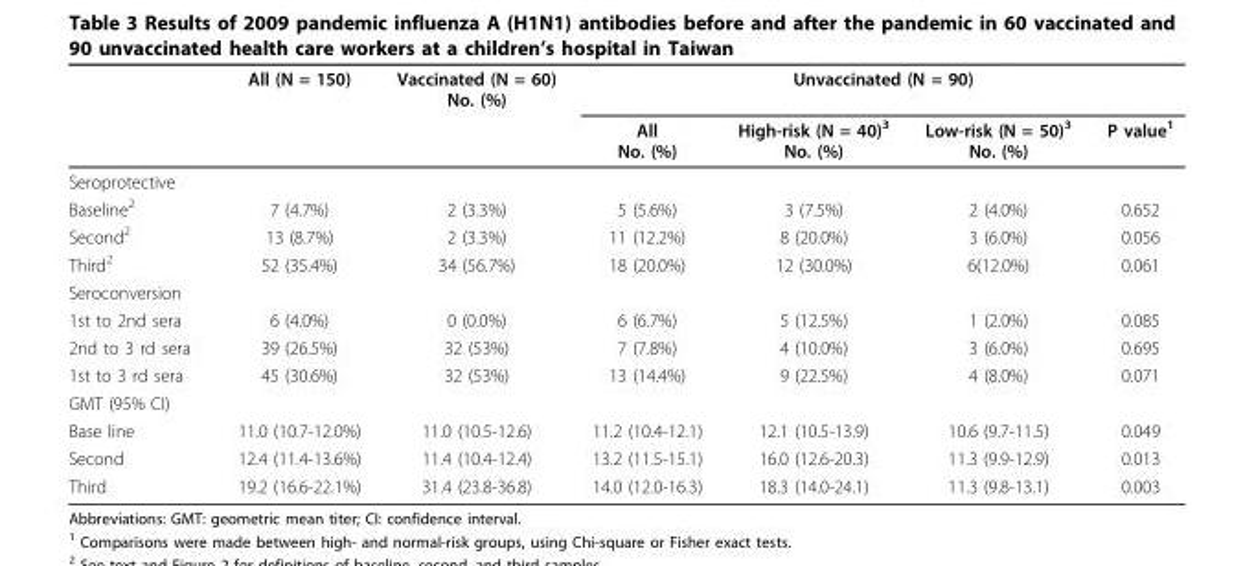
<table><thead><tr><td rowspan="2"></td><td rowspan="2">All (N = 150)</td><td rowspan="2">Vaccinated (N = 60) No. (%)</td><td colspan="4">Unvaccinated (N = 90)</td></tr><tr><td>All No. (%)</td><td>High-risk (N = 40)<sup>3</sup> No. (%)</td><td>Low-risk (N = 50)<sup>3</sup> No. (%)</td><td>P value<sup>1</sup></td></tr></thead><tbody><tr><td colspan="7">Seroprotective</td></tr><tr><td>Baseline<sup>2</sup></td><td>7 (4.7%)</td><td>2 (3.3%)</td><td>5 (5.6%)</td><td>3 (7.5%)</td><td>2 (4.0%)</td><td>0.652</td></tr><tr><td>Second<sup>2</sup></td><td>13 (8.7%)</td><td>2 (3.3%)</td><td>11 (12.2%)</td><td>8 (20.0%)</td><td>3 (6.0%)</td><td>0.056</td></tr><tr><td>Third<sup>2</sup></td><td>52 (35.4%)</td><td>34 (56.7%)</td><td>18 (20.0%)</td><td>12 (30.0%)</td><td>6(12.0%)</td><td>0.061</td></tr><tr><td colspan="7">Seroconversion</td></tr><tr><td>1st to 2nd sera</td><td>6 (4.0%)</td><td>0 (0.0%)</td><td>6 (6.7%)</td><td>5 (12.5%)</td><td>1 (2.0%)</td><td>0.085</td></tr><tr><td>2nd to 3 rd sera</td><td>39 (26.5%)</td><td>32 (53%)</td><td>7 (7.8%)</td><td>4 (10.0%)</td><td>3 (6.0%)</td><td>0.695</td></tr><tr><td>1st to 3 rd sera</td><td>45 (30.6%)</td><td>32 (53%)</td><td>13 (14.4%)</td><td>9 (22.5%)</td><td>4 (8.0%)</td><td>0.071</td></tr><tr><td colspan="7">GMT (95% CI)</td></tr><tr><td>Base line</td><td>11.0 (10.7-12.0%)</td><td>11.0 (10.5-12.6)</td><td>11.2 (10.4-12.1)</td><td>12.1 (10.5-13.9)</td><td>10.6 (9.7-11.5)</td><td>0.049</td></tr><tr><td>Second</td><td>12.4 (11.4-13.6%)</td><td>11.4 (10.4-12.4)</td><td>13.2 (11.5-15.1)</td><td>16.0 (12.6-20.3)</td><td>11.3 (9.9-12.9)</td><td>0.013</td></tr><tr><td>Third</td><td>19.2 (16.6-22.1%)</td><td>31.4 (23.8-36.8)</td><td>14.0 (12.0-16.3)</td><td>18.3 (14.0-24.1)</td><td>11.3 (9.8-13.1)</td><td>0.003</td></tr></tbody></table>